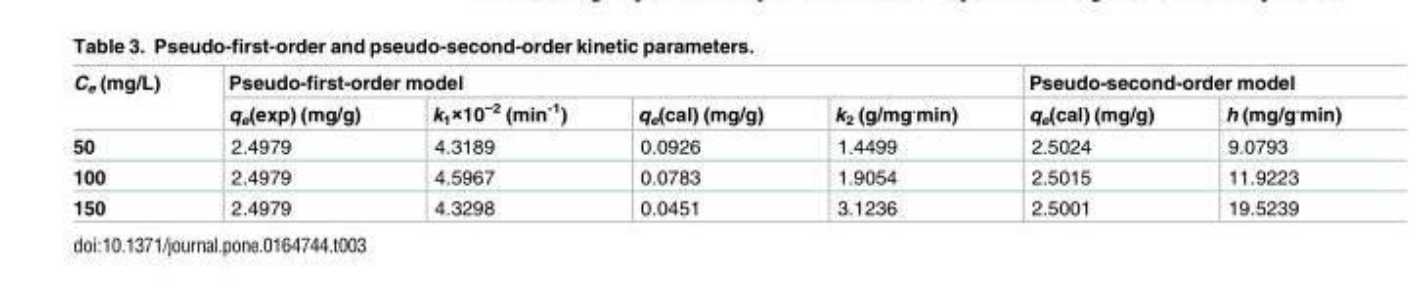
<table><thead><tr><td rowspan="2">C<sub>e</sub> (mg/L)</td><td colspan="4">Pseudo-first-order model</td><td colspan="2">Pseudo-second-order model</td></tr><tr><td>q<sub>e</sub>(exp) (mg/g)</td><td>k<sub>1</sub>×10<sup>−2</sup> (min<sup>-1</sup>)</td><td>q<sub>e</sub>(cal) (mg/g)</td><td>k<sub>2</sub> (g/mg<sup>.</sup>min)</td><td>q<sub>e</sub>(cal) (mg/g)</td><td>h (mg/g<sup>.</sup>min)</td></tr></thead><tbody><tr><td>50</td><td>2.4979</td><td>4.3189</td><td>0.0926</td><td>1.4499</td><td>2.5024</td><td>9.0793</td></tr><tr><td>100</td><td>2.4979</td><td>4.5967</td><td>0.0783</td><td>1.9054</td><td>2.5015</td><td>11.9223</td></tr><tr><td>150</td><td>2.4979</td><td>4.3298</td><td>0.0451</td><td>3.1236</td><td>2.5001</td><td>19.5239</td></tr></tbody></table>